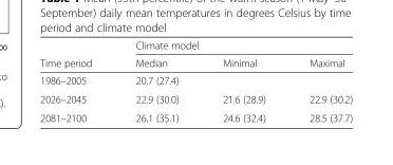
<table><thead><tr><td rowspan="2">Time period</td><td colspan="3">Climate model</td></tr><tr><td>Median</td><td>Minimal</td><td>Maximal</td></tr></thead><tbody><tr><td>1986–2005</td><td>20.7 (27.4)</td><td></td><td></td></tr><tr><td>2026–2045</td><td>22.9 (30.0)</td><td>21.6 (28.9)</td><td>22.9 (30.2)</td></tr><tr><td>2081–2100</td><td>26.1 (35.1)</td><td>24.6 (32.4)</td><td>28.5 (37.7)</td></tr></tbody></table>